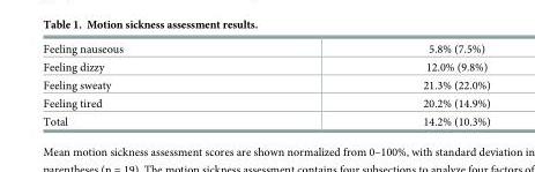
<table><tbody><tr><td>Feeling nauseous</td><td>5.8% (7.5%)</td></tr><tr><td>Feeling dizzy</td><td>12.0% (9.8%)</td></tr><tr><td>Feeling sweaty</td><td>21.3% (22.0%)</td></tr><tr><td>Feeling tired</td><td>20.2% (14.9%)</td></tr><tr><td>Total</td><td>14.2% (10.3%)</td></tr></tbody></table>